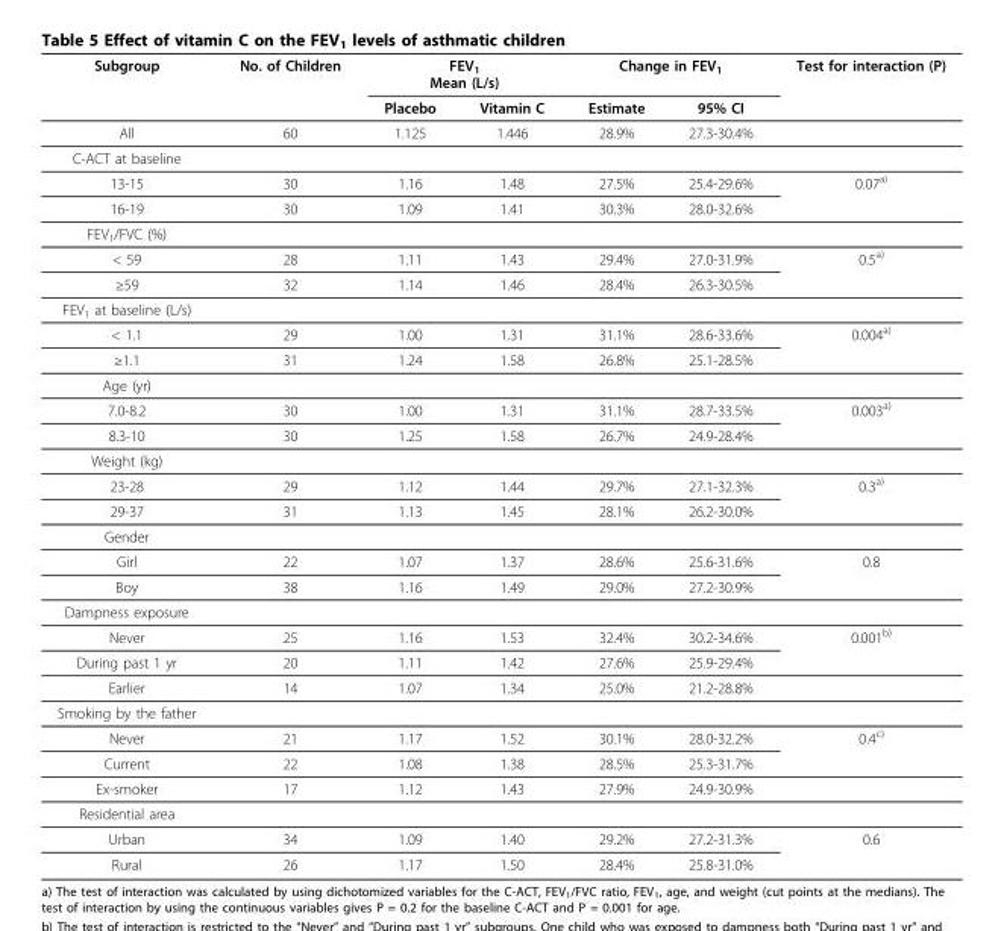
<table><thead><tr><td rowspan="2">Subgroup</td><td rowspan="2">No. of Children</td><td colspan="2">FEV1 Mean (L/s)</td><td colspan="2">Change in FEV1</td><td rowspan="2">Test for interaction (P)</td></tr><tr><td>Placebo</td><td>Vitamin C</td><td>Estimate</td><td>95% CI</td></tr></thead><tbody><tr><td>All</td><td>60</td><td>1.125</td><td>1.446</td><td>28.9%</td><td>27.3-30.4%</td><td></td></tr><tr><td colspan="7">C-ACT at baseline</td></tr><tr><td>13-15</td><td>30</td><td>1.16</td><td>1.48</td><td>27.5%</td><td>25.4-29.6%</td><td>0.07a)</td></tr><tr><td>16-19</td><td>30</td><td>1.09</td><td>1.41</td><td>30.3%</td><td>28.0-32.6%</td><td></td></tr><tr><td colspan="7">FEV1/FVC (%)</td></tr><tr><td>&lt; 59</td><td>28</td><td>1.11</td><td>1.43</td><td>29.4%</td><td>27.0-31.9%</td><td>0.5a)</td></tr><tr><td>≥59</td><td>32</td><td>1.14</td><td>1.46</td><td>28.4%</td><td>26.3-30.5%</td><td></td></tr><tr><td colspan="7">FEV1 at baseline (L/s)</td></tr><tr><td>&lt; 1.1</td><td>29</td><td>1.00</td><td>1.31</td><td>31.1%</td><td>28.6-33.6%</td><td>0.004a)</td></tr><tr><td>≥1.1</td><td>31</td><td>1.24</td><td>1.58</td><td>26.8%</td><td>25.1-28.5%</td><td></td></tr><tr><td colspan="7">Age (yr)</td></tr><tr><td>7.0-8.2</td><td>30</td><td>1.00</td><td>1.31</td><td>31.1%</td><td>28.7-33.5%</td><td>0.003a)</td></tr><tr><td>8.3-10</td><td>30</td><td>1.25</td><td>1.58</td><td>26.7%</td><td>24.9-28.4%</td><td></td></tr><tr><td colspan="7">Weight (kg)</td></tr><tr><td>23-28</td><td>29</td><td>1.12</td><td>1.44</td><td>29.7%</td><td>27.1-32.3%</td><td>0.3a)</td></tr><tr><td>29-37</td><td>31</td><td>1.13</td><td>1.45</td><td>28.1%</td><td>26.2-30.0%</td><td></td></tr><tr><td colspan="7">Gender</td></tr><tr><td>Girl</td><td>22</td><td>1.07</td><td>1.37</td><td>28.6%</td><td>25.6-31.6%</td><td>0.8</td></tr><tr><td>Boy</td><td>38</td><td>1.16</td><td>1.49</td><td>29.0%</td><td>27.2-30.9%</td><td></td></tr><tr><td colspan="7">Dampness exposure</td></tr><tr><td>Never</td><td>25</td><td>1.16</td><td>1.53</td><td>32.4%</td><td>30.2-34.6%</td><td>0.001b)</td></tr><tr><td>During past 1 yr</td><td>20</td><td>1.11</td><td>1.42</td><td>27.6%</td><td>25.9-29.4%</td><td></td></tr><tr><td>Earlier</td><td>14</td><td>1.07</td><td>1.34</td><td>25.0%</td><td>21.2-28.8%</td><td></td></tr><tr><td colspan="7">Smoking by the father</td></tr><tr><td>Never</td><td>21</td><td>1.17</td><td>1.52</td><td>30.1%</td><td>28.0-32.2%</td><td>0.4c)</td></tr><tr><td>Current</td><td>22</td><td>1.08</td><td>1.38</td><td>28.5%</td><td>25.3-31.7%</td><td></td></tr><tr><td>Ex-smoker</td><td>17</td><td>1.12</td><td>1.43</td><td>27.9%</td><td>24.9-30.9%</td><td></td></tr><tr><td colspan="7">Residential area</td></tr><tr><td>Urban</td><td>34</td><td>1.09</td><td>1.40</td><td>29.2%</td><td>27.2-31.3%</td><td>0.6</td></tr><tr><td>Rural</td><td>26</td><td>1.17</td><td>1.50</td><td>28.4%</td><td>25.8-31.0%</td><td></td></tr></tbody></table>